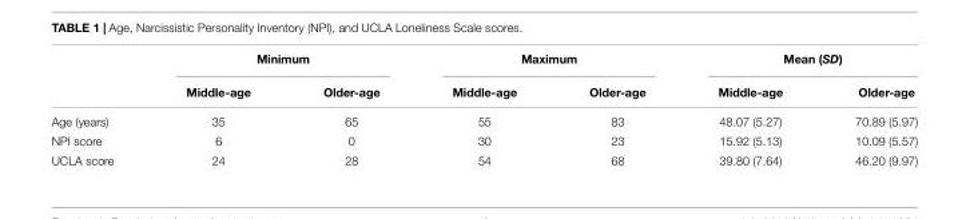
<table><thead><tr><td rowspan="2"></td><td colspan="2">Minimum</td><td colspan="2">Maximum</td><td colspan="2">Mean (SD)</td></tr><tr><td>Middle-age</td><td>Older-age</td><td>Middle-age</td><td>Older-age</td><td>Middle-age</td><td>Older-age</td></tr></thead><tbody><tr><td>Age (years)</td><td>35</td><td>65</td><td>55</td><td>83</td><td>48.07 (5.27)</td><td>70.89 (5.97)</td></tr><tr><td>NPI score</td><td>6</td><td>0</td><td>30</td><td>23</td><td>15.92 (5.13)</td><td>10.09 (5.57)</td></tr><tr><td>UCLA score</td><td>24</td><td>28</td><td>54</td><td>68</td><td>39.80 (7.64)</td><td>46.20 (9.97)</td></tr></tbody></table>